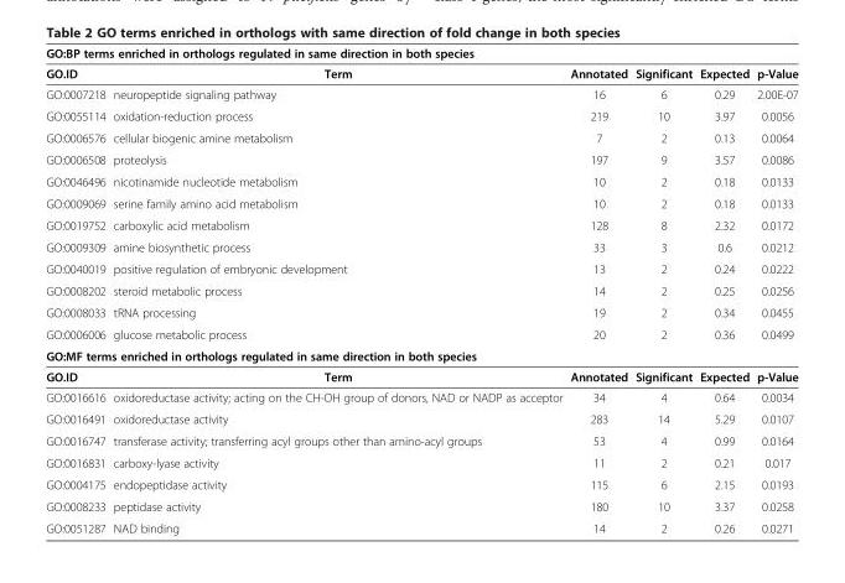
<table><thead><tr><td colspan="6">GO:BP terms enriched in orthologs regulated in same direction in both species</td></tr><tr><td>GO.ID</td><td>Term</td><td>Annotated</td><td>Significant</td><td>Expected</td><td>p-Value</td></tr></thead><tbody><tr><td>GO:0007218</td><td>neuropeptide signaling pathway</td><td>16</td><td>6</td><td>0.29</td><td>2.00E-07</td></tr><tr><td>GO:0055114</td><td>oxidation-reduction process</td><td>219</td><td>10</td><td>3.97</td><td>0.0056</td></tr><tr><td>GO:0006576</td><td>cellular biogenic amine metabolism</td><td>7</td><td>2</td><td>0.13</td><td>0.0064</td></tr><tr><td>GO:0006508</td><td>proteolysis</td><td>197</td><td>9</td><td>3.57</td><td>0.0086</td></tr><tr><td>GO:0046496</td><td>nicotinamide nucleotide metabolism</td><td>10</td><td>2</td><td>0.18</td><td>0.0133</td></tr><tr><td>GO:0009069</td><td>serine family amino acid metabolism</td><td>10</td><td>2</td><td>0.18</td><td>0.0133</td></tr><tr><td>GO:0019752</td><td>carboxylic acid metabolism</td><td>128</td><td>8</td><td>2.32</td><td>0.0172</td></tr><tr><td>GO:0009309</td><td>amine biosynthetic process</td><td>33</td><td>3</td><td>0.6</td><td>0.0212</td></tr><tr><td>GO:0040019</td><td>positive regulation of embryonic development</td><td>13</td><td>2</td><td>0.24</td><td>0.0222</td></tr><tr><td>GO:0008202</td><td>steroid metabolic process</td><td>14</td><td>2</td><td>0.25</td><td>0.0256</td></tr><tr><td>GO:0008033</td><td>tRNA processing</td><td>19</td><td>2</td><td>0.34</td><td>0.0455</td></tr><tr><td>GO:0006006</td><td>glucose metabolic process</td><td>20</td><td>2</td><td>0.36</td><td>0.0499</td></tr><tr><td colspan="6">GO:MF terms enriched in orthologs regulated in same direction in both species</td></tr><tr><td>GO.ID</td><td>Term</td><td>Annotated</td><td>Significant</td><td>Expected</td><td>p-Value</td></tr><tr><td>GO:0016616</td><td>oxidoreductase activity; acting on the CH-OH group of donors, NAD or NADP as acceptor</td><td>34</td><td>4</td><td>0.64</td><td>0.0034</td></tr><tr><td>GO:0016491</td><td>oxidoreductase activity</td><td>283</td><td>14</td><td>5.29</td><td>0.0107</td></tr><tr><td>GO:0016747</td><td>transferase activity; transferring acyl groups other than amino-acyl groups</td><td>53</td><td>4</td><td>0.99</td><td>0.0164</td></tr><tr><td>GO:0016831</td><td>carboxy-lyase activity</td><td>11</td><td>2</td><td>0.21</td><td>0.017</td></tr><tr><td>GO:0004175</td><td>endopeptidase activity</td><td>115</td><td>6</td><td>2.15</td><td>0.0193</td></tr><tr><td>GO:0008233</td><td>peptidase activity</td><td>180</td><td>10</td><td>3.37</td><td>0.0258</td></tr><tr><td>GO:0051287</td><td>NAD binding</td><td>14</td><td>2</td><td>0.26</td><td>0.0271</td></tr></tbody></table>